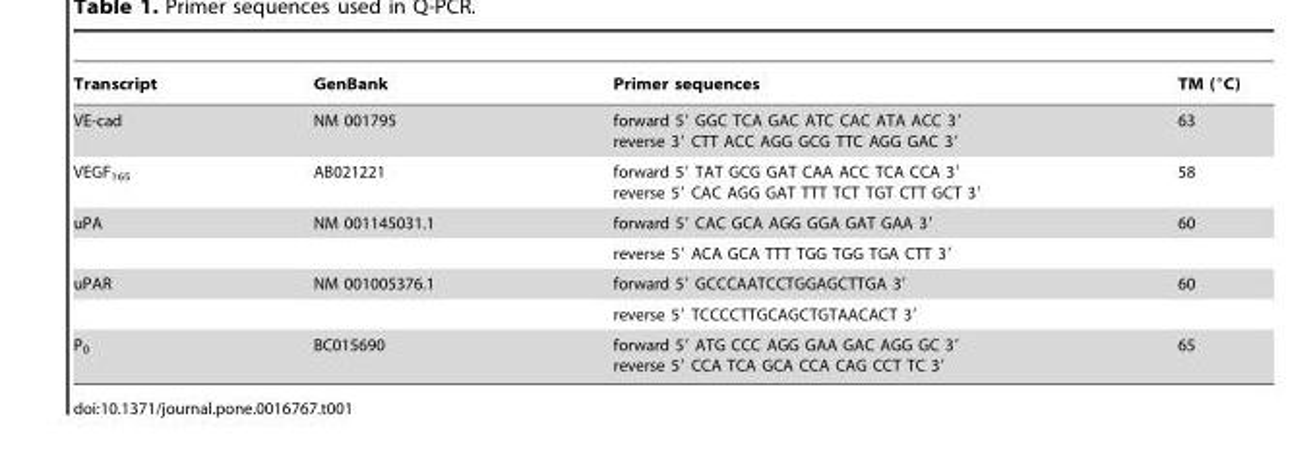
<table><thead><tr><td>Transcript</td><td>GenBank</td><td>Primer sequences</td><td>TM (°C)</td></tr></thead><tbody><tr><td>VE-cad</td><td>NM 001795</td><td>forward 5′ GGC TCA GAC ATC CAC ATA ACC 3′ reverse 3′ CTT ACC AGG GCG TTC AGG GAC 3′</td><td>63</td></tr><tr><td>VEGF<sub>165</sub></td><td>AB021221</td><td>forward 5′ TAT GCG GAT CAA ACC TCA CCA 3′ reverse 5′ CAC AGG GAT TTT TCT TGT CTT GCT 3′</td><td>58</td></tr><tr><td rowspan="2">uPA</td><td>NM 001145031.1</td><td>forward 5′ CAC GCA AGG GGA GAT GAA 3′</td><td>60</td></tr><tr><td></td><td>reverse 5′ ACA GCA TTT TGG TGG TGA CTT 3′</td><td></td></tr><tr><td rowspan="2">uPAR</td><td>NM 001005376.1</td><td>forward 5′ GCCCAATCCTGGAGCTTGA 3′</td><td>60</td></tr><tr><td></td><td>reverse 5′ TCCCCTTGCAGCTGTAACACT 3′</td><td></td></tr><tr><td>P<sub>0</sub></td><td>BC015690</td><td>forward 5′ ATG CCC AGG GAA GAC AGG GC 3′ reverse 5′ CCA TCA GCA CCA CAG CCT TC 3′</td><td>65</td></tr></tbody></table>